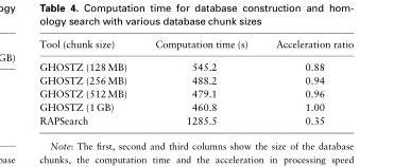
<table><thead><tr><td>Tool (chunk size)</td><td>Computation time (s)</td><td>Acceleration ratio</td></tr></thead><tbody><tr><td>GHOSTZ (128 MB)</td><td>545.2</td><td>0.88</td></tr><tr><td>GHOSTZ (256 MB)</td><td>488.2</td><td>0.94</td></tr><tr><td>GHOSTZ (512 MB)</td><td>479.1</td><td>0.96</td></tr><tr><td>GHOSTZ (1 GB)</td><td>460.8</td><td>1.00</td></tr><tr><td>RAPSearch</td><td>1285.5</td><td>0.35</td></tr></tbody></table>